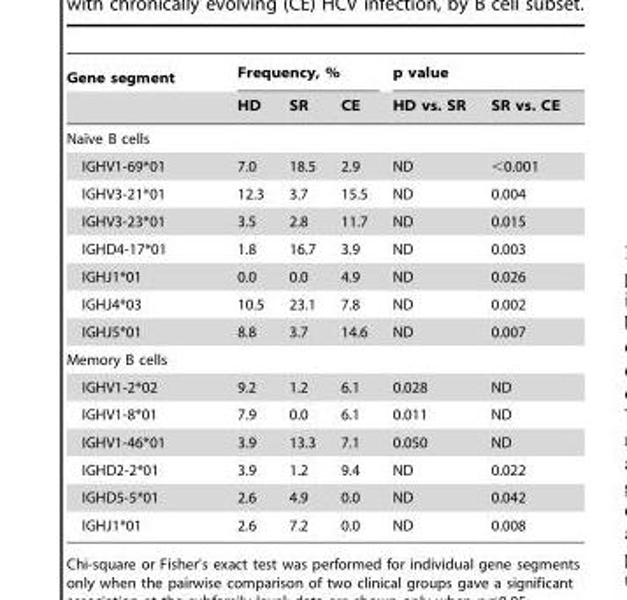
<table><thead><tr><td rowspan="2">Gene segment</td><td colspan="3">Frequency, %</td><td colspan="2">p value</td></tr><tr><td>HD</td><td>SR</td><td>CE</td><td>HD vs. SR</td><td>SR vs. CE</td></tr></thead><tbody><tr><td colspan="6">Naı¨ve B cells</td></tr><tr><td>IGHV1-69*01</td><td>7.0</td><td>18.5</td><td>2.9</td><td>ND</td><td>&lt;0.001</td></tr><tr><td>IGHV3-21*01</td><td>12.3</td><td>3.7</td><td>15.5</td><td>ND</td><td>0.004</td></tr><tr><td>IGHV3-23*01</td><td>3.5</td><td>2.8</td><td>11.7</td><td>ND</td><td>0.015</td></tr><tr><td>IGHD4-17*01</td><td>1.8</td><td>16.7</td><td>3.9</td><td>ND</td><td>0.003</td></tr><tr><td>IGHJ1*01</td><td>0.0</td><td>0.0</td><td>4.9</td><td>ND</td><td>0.026</td></tr><tr><td>IGHJ4*03</td><td>10.5</td><td>23.1</td><td>7.8</td><td>ND</td><td>0.002</td></tr><tr><td>IGHJ5*01</td><td>8.8</td><td>3.7</td><td>14.6</td><td>ND</td><td>0.007</td></tr><tr><td colspan="6">Memory B cells</td></tr><tr><td>IGHV1-2*02</td><td>9.2</td><td>1.2</td><td>6.1</td><td>0.028</td><td>ND</td></tr><tr><td>IGHV1-8*01</td><td>7.9</td><td>0.0</td><td>6.1</td><td>0.011</td><td>ND</td></tr><tr><td>IGHV1-46*01</td><td>3.9</td><td>13.3</td><td>7.1</td><td>0.050</td><td>ND</td></tr><tr><td>IGHD2-2*01</td><td>3.9</td><td>1.2</td><td>9.4</td><td>ND</td><td>0.022</td></tr><tr><td>IGHD5-5*01</td><td>2.6</td><td>4.9</td><td>0.0</td><td>ND</td><td>0.042</td></tr><tr><td>IGHJ1*01</td><td>2.6</td><td>7.2</td><td>0.0</td><td>ND</td><td>0.008</td></tr></tbody></table>